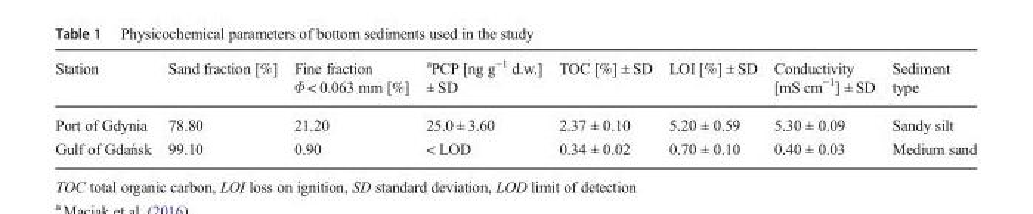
<table><thead><tr><td>Station</td><td>Sand fraction [%]</td><td>Fine fraction Φ &lt; 0.063 mm [%]</td><td><sup>a</sup>PCP [ng g<sup>−1</sup> d.w.] ± SD</td><td>TOC [%] ± SD</td><td>LOI [%] ± SD</td><td>Conductivity [mS cm<sup>−1</sup>] ± SD</td><td>Sediment type</td></tr></thead><tbody><tr><td>Port of Gdynia</td><td>78.80</td><td>21.20</td><td>25.0 ± 3.60</td><td>2.37 ± 0.10</td><td>5.20 ± 0.59</td><td>5.30 ± 0.09</td><td>Sandy silt</td></tr><tr><td>Gulf of Gdańsk</td><td>99.10</td><td>0.90</td><td>&lt; LOD</td><td>0.34 ± 0.02</td><td>0.70 ± 0.10</td><td>0.40 ± 0.03</td><td>Medium sand</td></tr></tbody></table>